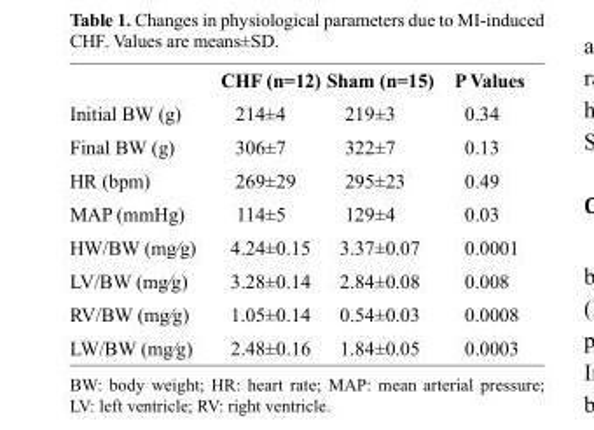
<table><thead><tr><td></td><td>CHF (n=12)</td><td>Sham (n=15)</td><td>P Values</td></tr></thead><tbody><tr><td>Initial BW (g) Final BW (g) HR (bpm) MAP (mmHg) HW/BW (mg⁄g) LV/BW (mg⁄g) RV/BW (mg⁄g) LW/BW (mg⁄g)</td><td>214±4 306±7 269±29 114±5 4.24±0.15 3.28±0.14 1.05±0.14 2.48±0.16</td><td>219±3 322±7 295±23 129±4 3.37±0.07 2.84±0.08 0.54±0.03 1.84±0.05</td><td>0.34 0.13 0.49 0.03 0.0001 0.008 0.0008 0.0003</td></tr></tbody></table>